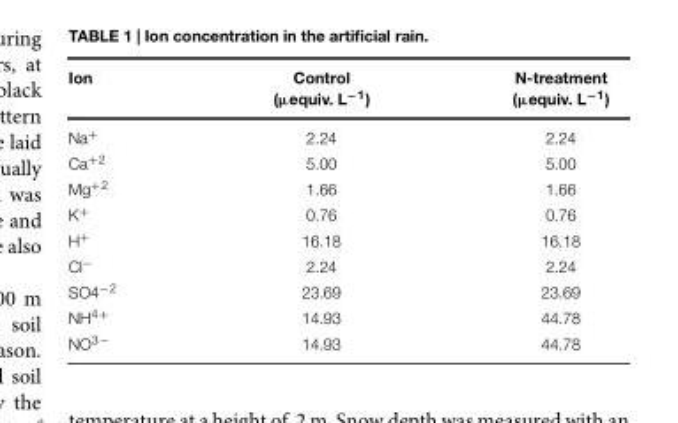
<table><thead><tr><td>Ion</td><td>Control (µequiv. L<sup>−1</sup>)</td><td>N-treatment (µequiv. L<sup>−1</sup>)</td></tr></thead><tbody><tr><td>Na<sup>+</sup></td><td>2.24</td><td>2.24</td></tr><tr><td>Ca<sup>+2</sup></td><td>5.00</td><td>5.00</td></tr><tr><td>Mg<sup>+2</sup></td><td>1.66</td><td>1.66</td></tr><tr><td>K<sup>+</sup></td><td>0.76</td><td>0.76</td></tr><tr><td>H<sup>+</sup></td><td>16.18</td><td>16.18</td></tr><tr><td>Cl<sup>−</sup></td><td>2.24</td><td>2.24</td></tr><tr><td>SO4<sup>−2</sup></td><td>23.69</td><td>23.69</td></tr><tr><td>NH<sup>4+</sup></td><td>14.93</td><td>44.78</td></tr><tr><td>NO<sup>3−</sup></td><td>14.93</td><td>44.78</td></tr></tbody></table>